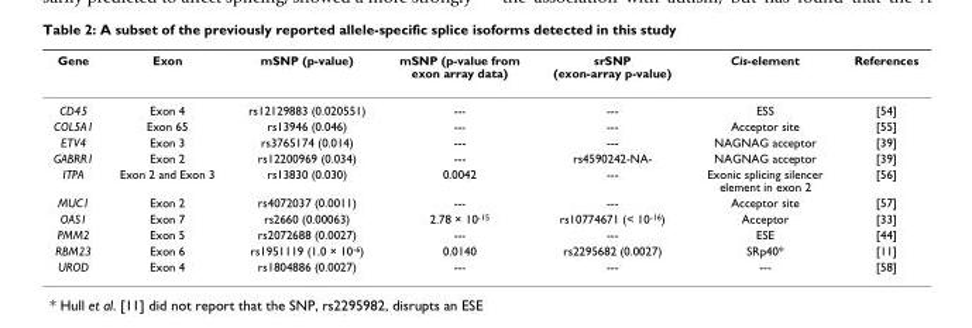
<table><thead><tr><td>Gene</td><td>Exon</td><td>mSNP (p-value)</td><td>mSNP (p-value from exon array data)</td><td>srSNP (exon-array p-value)</td><td>Cis-element</td><td>References</td></tr></thead><tbody><tr><td>CD45</td><td>Exon 4</td><td>rs12129883 (0.020551)</td><td>---</td><td>---</td><td>ESS</td><td>[54]</td></tr><tr><td>COL5A1</td><td>Exon 65</td><td>rs13946 (0.046)</td><td>---</td><td>---</td><td>Acceptor site</td><td>[55]</td></tr><tr><td>ETV4</td><td>Exon 3</td><td>rs3765174 (0.014)</td><td>---</td><td>---</td><td>NAGNAG acceptor</td><td>[39]</td></tr><tr><td>GABRR1</td><td>Exon 2</td><td>rs12200969 (0.034)</td><td>---</td><td>rs4590242-NA-</td><td>NAGNAG acceptor</td><td>[39]</td></tr><tr><td>ITPA</td><td>Exon 2 and Exon 3</td><td>rs13830 (0.030)</td><td>0.0042</td><td>---</td><td>Exonic splicing silencer element in exon 2</td><td>[56]</td></tr><tr><td>MUC1</td><td>Exon 2</td><td>rs4072037 (0.0011)</td><td>---</td><td>---</td><td>Acceptor site</td><td>[57]</td></tr><tr><td>OAS1</td><td>Exon 7</td><td>rs2660 (0.00063)</td><td>2.78 × 10<sup>-15</sup></td><td>rs10774671 (&lt; 10<sup>-16</sup>)</td><td>Acceptor</td><td>[33]</td></tr><tr><td>PMM2</td><td>Exon 5</td><td>rs2072688 (0.0027)</td><td>---</td><td>---</td><td>ESE</td><td>[44]</td></tr><tr><td>RBM23</td><td>Exon 6</td><td>rs1951119 (1.0 × 10<sup>-6</sup>)</td><td>0.0140</td><td>rs2295682 (0.0027)</td><td>SRp40*</td><td>[11]</td></tr><tr><td>UROD</td><td>Exon 4</td><td>rs1804886 (0.0027)</td><td>---</td><td>---</td><td>---</td><td>[58]</td></tr></tbody></table>